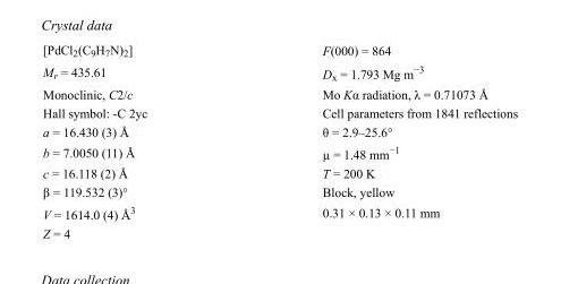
<table><tbody><tr><td>[PdCl<sub>2</sub>(C<sub>9</sub>H<sub>7</sub>N)<sub>2</sub>]</td><td>F(000) = 864</td></tr><tr><td>M<sub>r</sub> = 435.61</td><td>D<sub>x</sub> = 1.793 Mg m<sup>−3</sup></td></tr><tr><td>Monoclinic, C2/c</td><td>Mo Kα radiation, λ = 0.71073 Å</td></tr><tr><td>Hall symbol: -C 2yc</td><td>Cell parameters from 1841 reflections</td></tr><tr><td>a = 16.430 (3) Å</td><td>θ = 2.9–25.6°</td></tr><tr><td>b = 7.0050 (11) Å</td><td>µ = 1.48 mm<sup>−1</sup></td></tr><tr><td>c = 16.118 (2) Å</td><td>T = 200 K</td></tr><tr><td>β = 119.532 (3)°</td><td>Block, yellow</td></tr><tr><td>V = 1614.0 (4) Å<sup>3</sup></td><td>0.31 × 0.13 × 0.11 mm</td></tr><tr><td>Z = 4</td><td></td></tr></tbody></table>